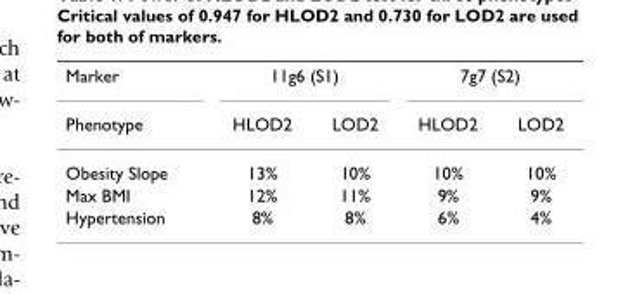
<table><thead><tr><td rowspan="2">Marker Phenotype</td><td colspan="2">11g6 (S1)</td><td colspan="2">7g7 (S2)</td></tr><tr><td>HLOD2</td><td>LOD2</td><td>HLOD2</td><td>LOD2</td></tr></thead><tbody><tr><td>Obesity Slope</td><td>13%</td><td>10%</td><td>10%</td><td>10%</td></tr><tr><td>Max BMI</td><td>12%</td><td>11%</td><td>9%</td><td>9%</td></tr><tr><td>Hypertension</td><td>8%</td><td>8%</td><td>6%</td><td>4%</td></tr></tbody></table>